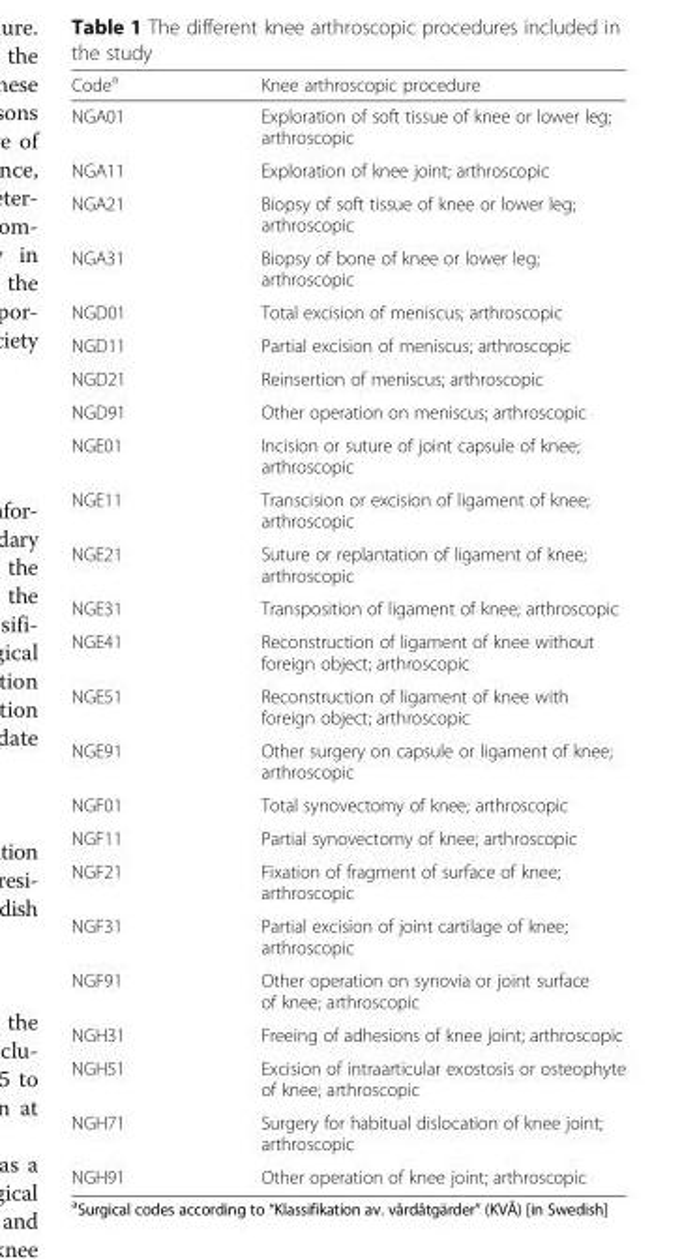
<table><thead><tr><td>Code<sup>a</sup></td><td>Knee arthroscopic procedure</td></tr></thead><tbody><tr><td>NGA01</td><td>Exploration of soft tissue of knee or lower leg; arthroscopic</td></tr><tr><td>NGA11</td><td>Exploration of knee joint; arthroscopic</td></tr><tr><td>NGA21</td><td>Biopsy of soft tissue of knee or lower leg; arthroscopic</td></tr><tr><td>NGA31</td><td>Biopsy of bone of knee or lower leg; arthroscopic</td></tr><tr><td>NGD01</td><td>Total excision of meniscus; arthroscopic</td></tr><tr><td>NGD11</td><td>Partial excision of meniscus; arthroscopic</td></tr><tr><td>NGD21</td><td>Reinsertion of meniscus; arthroscopic</td></tr><tr><td>NGD91</td><td>Other operation on meniscus; arthroscopic</td></tr><tr><td>NGE01</td><td>Incision or suture of joint capsule of knee; arthroscopic</td></tr><tr><td>NGE11</td><td>Transcision or excision of ligament of knee; arthroscopic</td></tr><tr><td>NGE21</td><td>Suture or replantation of ligament of knee; arthroscopic</td></tr><tr><td>NGE31</td><td>Transposition of ligament of knee; arthroscopic</td></tr><tr><td>NGE41</td><td>Reconstruction of ligament of knee without foreign object; arthroscopic</td></tr><tr><td>NGE51</td><td>Reconstruction of ligament of knee with foreign object; arthroscopic</td></tr><tr><td>NGE91</td><td>Other surgery on capsule or ligament of knee; arthroscopic</td></tr><tr><td>NGF01</td><td>Total synovectomy of knee; arthroscopic</td></tr><tr><td>NGF11</td><td>Partial synovectomy of knee; arthroscopic</td></tr><tr><td>NGF21</td><td>Fixation of fragment of surface of knee; arthroscopic</td></tr><tr><td>NGF31</td><td>Partial excision of joint cartilage of knee; arthroscopic</td></tr><tr><td>NGF91</td><td>Other operation on synovia or joint surface of knee; arthroscopic</td></tr><tr><td>NGH31</td><td>Freeing of adhesions of knee joint; arthroscopic</td></tr><tr><td>NGH51</td><td>Excision of intraarticular exostosis or osteophyte of knee; arthroscopic</td></tr><tr><td>NGH71</td><td>Surgery for habitual dislocation of knee joint; arthroscopic</td></tr><tr><td>NGH91</td><td>Other operation of knee joint; arthroscopic</td></tr></tbody></table>